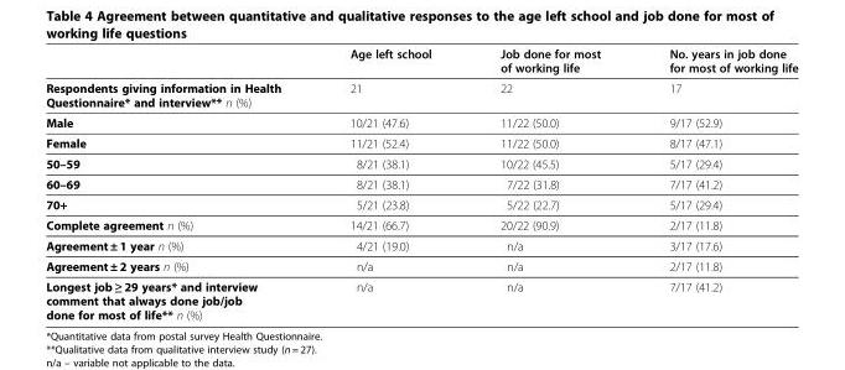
<table><thead><tr><td></td><td>Age left school</td><td>Job done for most of working life</td><td>No. years in job done for most of working life</td></tr></thead><tbody><tr><td>Respondents giving information in Health Questionnaire* and interview** n (%)</td><td>21</td><td>22</td><td>17</td></tr><tr><td>Male</td><td>10/21 (47.6)</td><td>11/22 (50.0)</td><td>9/17 (52.9)</td></tr><tr><td>Female</td><td>11/21 (52.4)</td><td>11/22 (50.0)</td><td>8/17 (47.1)</td></tr><tr><td>50–59</td><td>8/21 (38.1)</td><td>10/22 (45.5)</td><td>5/17 (29.4)</td></tr><tr><td>60–69</td><td>8/21 (38.1)</td><td>7/22 (31.8)</td><td>7/17 (41.2)</td></tr><tr><td>70+</td><td>5/21 (23.8)</td><td>5/22 (22.7)</td><td>5/17 (29.4)</td></tr><tr><td>Complete agreement n (%)</td><td>14/21 (66.7)</td><td>20/22 (90.9)</td><td>2/17 (11.8)</td></tr><tr><td>Agreement ± 1 year n (%)</td><td>4/21 (19.0)</td><td>n/a</td><td>3/17 (17.6)</td></tr><tr><td>Agreement ± 2 years n (%)</td><td>n/a</td><td>n/a</td><td>2/17 (11.8)</td></tr><tr><td>Longest job ≥ 29 years* and interview comment that always done job/job done for most of life** n (%)</td><td>n/a</td><td>n/a</td><td>7/17 (41.2)</td></tr></tbody></table>